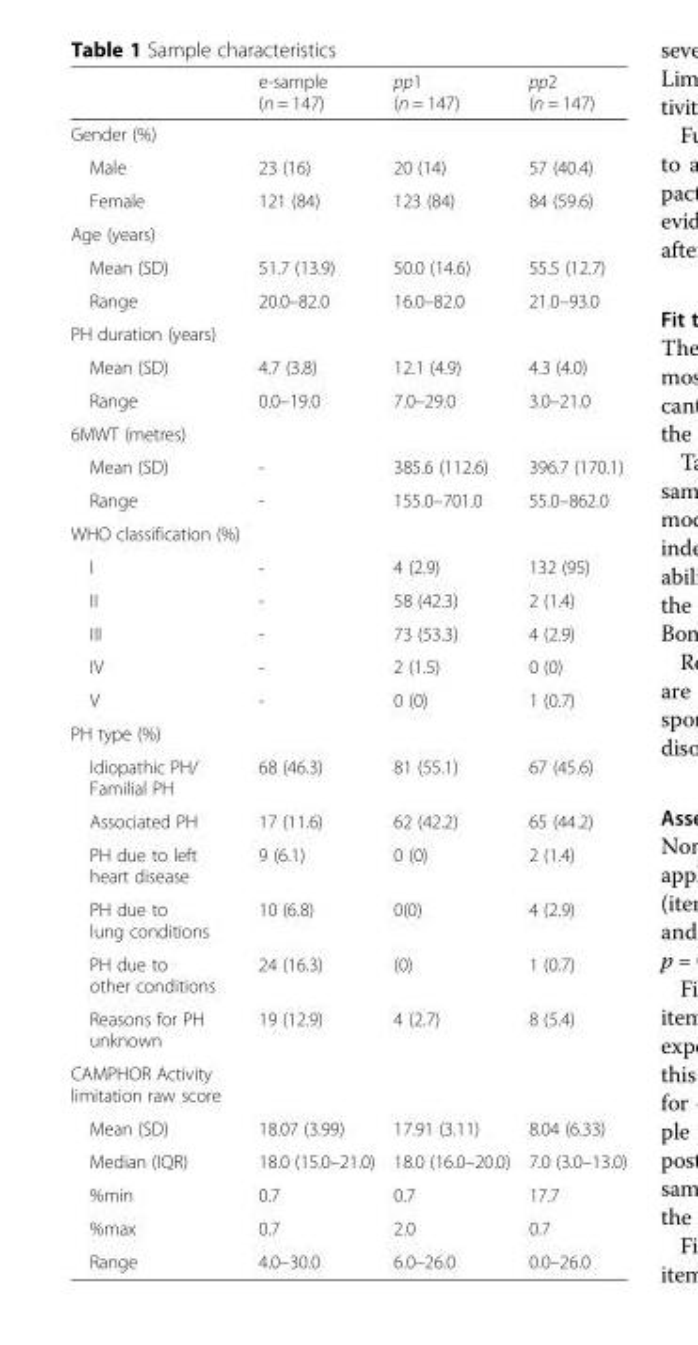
<table><thead><tr><td></td><td>e-sample (n = 147)</td><td>pp1 (n = 147)</td><td>pp2 (n = 147)</td></tr></thead><tbody><tr><td colspan="4">Gender (%)</td></tr><tr><td>Male</td><td>23 (16)</td><td>20 (14)</td><td>57 (40.4)</td></tr><tr><td>Female</td><td>121 (84)</td><td>123 (84)</td><td>84 (59.6)</td></tr><tr><td colspan="4">Age (years)</td></tr><tr><td>Mean (SD)</td><td>51.7 (13.9)</td><td>50.0 (14.6)</td><td>55.5 (12.7)</td></tr><tr><td>Range</td><td>20.0–82.0</td><td>16.0–82.0</td><td>21.0–93.0</td></tr><tr><td colspan="4">PH duration (years)</td></tr><tr><td>Mean (SD)</td><td>4.7 (3.8)</td><td>12.1 (4.9)</td><td>4.3 (4.0)</td></tr><tr><td>Range</td><td>0.0–19.0</td><td>7.0–29.0</td><td>3.0–21.0</td></tr><tr><td colspan="4">6MWT (metres)</td></tr><tr><td>Mean (SD)</td><td>-</td><td>385.6 (112.6)</td><td>396.7 (170.1)</td></tr><tr><td>Range</td><td>-</td><td>155.0–701.0</td><td>55.0–862.0</td></tr><tr><td colspan="4">WHO classification (%)</td></tr><tr><td>I</td><td>-</td><td>4 (2.9)</td><td>132 (95)</td></tr><tr><td>II</td><td>-</td><td>58 (42.3)</td><td>2 (1.4)</td></tr><tr><td>III</td><td>-</td><td>73 (53.3)</td><td>4 (2.9)</td></tr><tr><td>IV</td><td>-</td><td>2 (1.5)</td><td>0 (0)</td></tr><tr><td>V</td><td>-</td><td>0 (0)</td><td>1 (0.7)</td></tr><tr><td colspan="4">PH type (%)</td></tr><tr><td>Idiopathic PH/ Familial PH</td><td>68 (46.3)</td><td>81 (55.1)</td><td>67 (45.6)</td></tr><tr><td>Associated PH</td><td>17 (11.6)</td><td>62 (42.2)</td><td>65 (44.2)</td></tr><tr><td>PH due to left heart disease</td><td>9 (6.1)</td><td>0 (0)</td><td>2 (1.4)</td></tr><tr><td>PH due to lung conditions</td><td>10 (6.8)</td><td>0(0)</td><td>4 (2.9)</td></tr><tr><td>PH due to other conditions</td><td>24 (16.3)</td><td>(0)</td><td>1 (0.7)</td></tr><tr><td>Reasons for PH unknown</td><td>19 (12.9)</td><td>4 (2.7)</td><td>8 (5.4)</td></tr><tr><td colspan="4">CAMPHOR Activity limitation raw score</td></tr><tr><td>Mean (SD)</td><td>18.07 (3.99)</td><td>17.91 (3.11)</td><td>8.04 (6.33)</td></tr><tr><td>Median (IQR)</td><td>18.0 (15.0–21.0)</td><td>18.0 (16.0–20.0)</td><td>7.0 (3.0–13.0)</td></tr><tr><td>%min</td><td>0.7</td><td>0.7</td><td>17.7</td></tr><tr><td>%max</td><td>0.7</td><td>2.0</td><td>0.7</td></tr><tr><td>Range</td><td>4.0–30.0</td><td>6.0–26.0</td><td>0.0–26.0</td></tr></tbody></table>